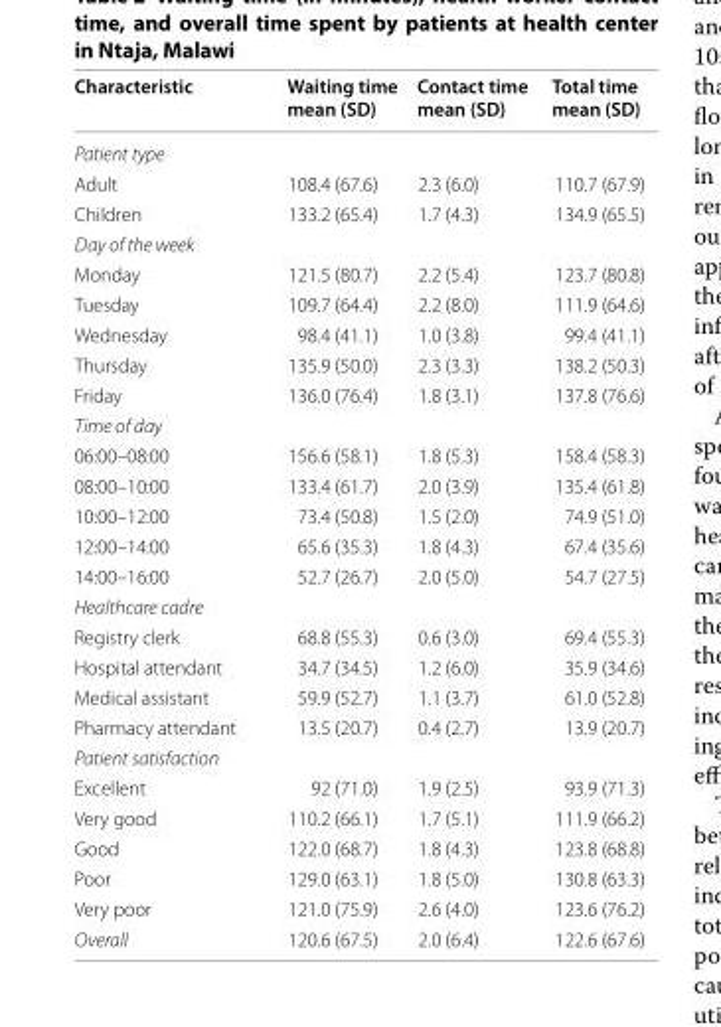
<table><thead><tr><td>Characteristic</td><td>Waiting time mean (SD)</td><td>Contact time mean (SD)</td><td>Total time mean (SD)</td></tr></thead><tbody><tr><td colspan="4">Patient type</td></tr><tr><td>Adult</td><td>108.4 (67.6)</td><td>2.3 (6.0)</td><td>110.7 (67.9)</td></tr><tr><td>Children</td><td>133.2 (65.4)</td><td>1.7 (4.3)</td><td>134.9 (65.5)</td></tr><tr><td colspan="4">Day of the week</td></tr><tr><td>Monday</td><td>121.5 (80.7)</td><td>2.2 (5.4)</td><td>123.7 (80.8)</td></tr><tr><td>Tuesday</td><td>109.7 (64.4)</td><td>2.2 (8.0)</td><td>111.9 (64.6)</td></tr><tr><td>Wednesday</td><td>98.4 (41.1)</td><td>1.0 (3.8)</td><td>99.4 (41.1)</td></tr><tr><td>Thursday</td><td>135.9 (50.0)</td><td>2.3 (3.3)</td><td>138.2 (50.3)</td></tr><tr><td>Friday</td><td>136.0 (76.4)</td><td>1.8 (3.1)</td><td>137.8 (76.6)</td></tr><tr><td colspan="4">Time of day</td></tr><tr><td>06:00–08:00</td><td>156.6 (58.1)</td><td>1.8 (5.3)</td><td>158.4 (58.3)</td></tr><tr><td>08:00–10:00</td><td>133.4 (61.7)</td><td>2.0 (3.9)</td><td>135.4 (61.8)</td></tr><tr><td>10:00–12:00</td><td>73.4 (50.8)</td><td>1.5 (2.0)</td><td>74.9 (51.0)</td></tr><tr><td>12:00–14:00</td><td>65.6 (35.3)</td><td>1.8 (4.3)</td><td>67.4 (35.6)</td></tr><tr><td>14:00–16:00</td><td>52.7 (26.7)</td><td>2.0 (5.0)</td><td>54.7 (27.5)</td></tr><tr><td colspan="4">Healthcare cadre</td></tr><tr><td>Registry clerk</td><td>68.8 (55.3)</td><td>0.6 (3.0)</td><td>69.4 (55.3)</td></tr><tr><td>Hospital attendant</td><td>34.7 (34.5)</td><td>1.2 (6.0)</td><td>35.9 (34.6)</td></tr><tr><td>Medical assistant</td><td>59.9 (52.7)</td><td>1.1 (3.7)</td><td>61.0 (52.8)</td></tr><tr><td>Pharmacy attendant</td><td>13.5 (20.7)</td><td>0.4 (2.7)</td><td>13.9 (20.7)</td></tr><tr><td colspan="4">Patient satisfaction</td></tr><tr><td>Excellent</td><td>92 (71.0)</td><td>1.9 (2.5)</td><td>93.9 (71.3)</td></tr><tr><td>Very good</td><td>110.2 (66.1)</td><td>1.7 (5.1)</td><td>111.9 (66.2)</td></tr><tr><td>Good</td><td>122.0 (68.7)</td><td>1.8 (4.3)</td><td>123.8 (68.8)</td></tr><tr><td>Poor</td><td>129.0 (63.1)</td><td>1.8 (5.0)</td><td>130.8 (63.3)</td></tr><tr><td>Very poor</td><td>121.0 (75.9)</td><td>2.6 (4.0)</td><td>123.6 (76.2)</td></tr><tr><td>Overall</td><td>120.6 (67.5)</td><td>2.0 (6.4)</td><td>122.6 (67.6)</td></tr></tbody></table>